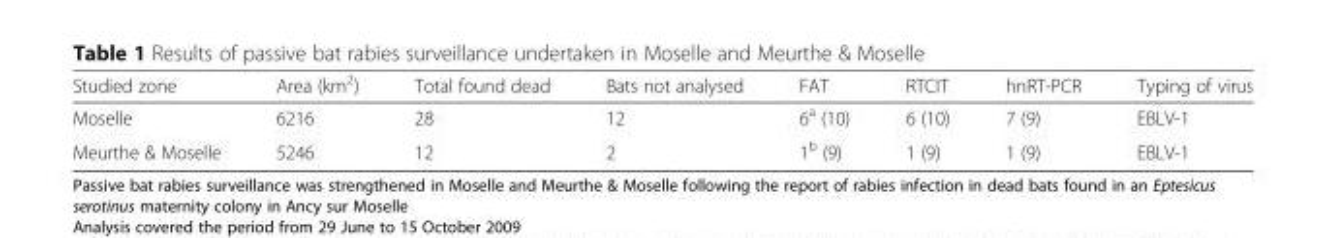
<table><thead><tr><td>Studied zone</td><td>Area (km<sup>2</sup>)</td><td>Total found dead</td><td>Bats not analysed</td><td>FAT</td><td>RTCIT</td><td>hnRT-PCR</td><td>Typing of virus</td></tr></thead><tbody><tr><td>Moselle</td><td>6216</td><td>28</td><td>12</td><td>6<sup>a</sup> (10)</td><td>6 (10)</td><td>7 (9)</td><td>EBLV-1</td></tr><tr><td>Meurthe &amp; Moselle</td><td>5246</td><td>12</td><td>2</td><td>1<sup>b</sup> (9)</td><td>1 (9)</td><td>1 (9)</td><td>EBLV-1</td></tr></tbody></table>